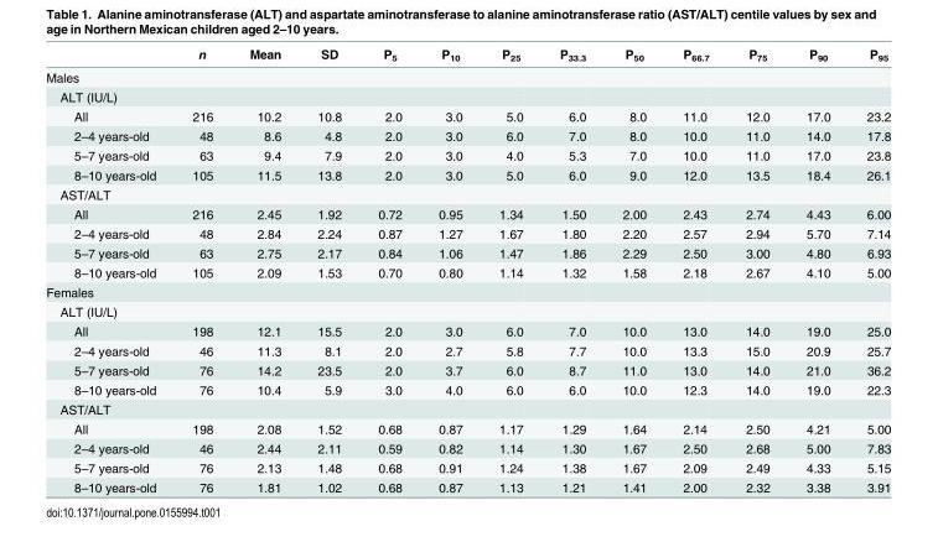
<table><thead><tr><td></td><td>n</td><td>Mean</td><td>SD</td><td>P<sub>5</sub></td><td>P<sub>10</sub></td><td>P<sub>25</sub></td><td>P<sub>33.3</sub></td><td>P<sub>50</sub></td><td>P<sub>66.7</sub></td><td>P<sub>75</sub></td><td>P<sub>90</sub></td><td>P<sub>95</sub></td></tr></thead><tbody><tr><td colspan="13">Males</td></tr><tr><td colspan="13">ALT (IU/L)</td></tr><tr><td>All</td><td>216</td><td>10.2</td><td>10.8</td><td>2.0</td><td>3.0</td><td>5.0</td><td>6.0</td><td>8.0</td><td>11.0</td><td>12.0</td><td>17.0</td><td>23.2</td></tr><tr><td>2–4 years-old</td><td>48</td><td>8.6</td><td>4.8</td><td>2.0</td><td>3.0</td><td>6.0</td><td>7.0</td><td>8.0</td><td>10.0</td><td>11.0</td><td>14.0</td><td>17.8</td></tr><tr><td>5–7 years-old</td><td>63</td><td>9.4</td><td>7.9</td><td>2.0</td><td>3.0</td><td>4.0</td><td>5.3</td><td>7.0</td><td>10.0</td><td>11.0</td><td>17.0</td><td>23.8</td></tr><tr><td>8–10 years-old</td><td>105</td><td>11.5</td><td>13.8</td><td>2.0</td><td>3.0</td><td>5.0</td><td>6.0</td><td>9.0</td><td>12.0</td><td>13.5</td><td>18.4</td><td>26.1</td></tr><tr><td colspan="13">AST/ALT</td></tr><tr><td>All</td><td>216</td><td>2.45</td><td>1.92</td><td>0.72</td><td>0.95</td><td>1.34</td><td>1.50</td><td>2.00</td><td>2.43</td><td>2.74</td><td>4.43</td><td>6.00</td></tr><tr><td>2–4 years-old</td><td>48</td><td>2.84</td><td>2.24</td><td>0.87</td><td>1.27</td><td>1.67</td><td>1.80</td><td>2.20</td><td>2.57</td><td>2.94</td><td>5.70</td><td>7.14</td></tr><tr><td>5–7 years-old</td><td>63</td><td>2.75</td><td>2.17</td><td>0.84</td><td>1.06</td><td>1.47</td><td>1.86</td><td>2.29</td><td>2.50</td><td>3.00</td><td>4.80</td><td>6.93</td></tr><tr><td>8–10 years-old</td><td>105</td><td>2.09</td><td>1.53</td><td>0.70</td><td>0.80</td><td>1.14</td><td>1.32</td><td>1.58</td><td>2.18</td><td>2.67</td><td>4.10</td><td>5.00</td></tr><tr><td colspan="13">Females</td></tr><tr><td colspan="13">ALT (IU/L)</td></tr><tr><td>All</td><td>198</td><td>12.1</td><td>15.5</td><td>2.0</td><td>3.0</td><td>6.0</td><td>7.0</td><td>10.0</td><td>13.0</td><td>14.0</td><td>19.0</td><td>25.0</td></tr><tr><td>2–4 years-old</td><td>46</td><td>11.3</td><td>8.1</td><td>2.0</td><td>2.7</td><td>5.8</td><td>7.7</td><td>10.0</td><td>13.3</td><td>15.0</td><td>20.9</td><td>25.7</td></tr><tr><td>5–7 years-old</td><td>76</td><td>14.2</td><td>23.5</td><td>2.0</td><td>3.7</td><td>6.0</td><td>8.7</td><td>11.0</td><td>13.0</td><td>14.0</td><td>21.0</td><td>36.2</td></tr><tr><td>8–10 years-old</td><td>76</td><td>10.4</td><td>5.9</td><td>3.0</td><td>4.0</td><td>6.0</td><td>6.0</td><td>10.0</td><td>12.3</td><td>14.0</td><td>19.0</td><td>22.3</td></tr><tr><td colspan="13">AST/ALT</td></tr><tr><td>All</td><td>198</td><td>2.08</td><td>1.52</td><td>0.68</td><td>0.87</td><td>1.17</td><td>1.29</td><td>1.64</td><td>2.14</td><td>2.50</td><td>4.21</td><td>5.00</td></tr><tr><td>2–4 years-old</td><td>46</td><td>2.44</td><td>2.11</td><td>0.59</td><td>0.82</td><td>1.14</td><td>1.30</td><td>1.67</td><td>2.50</td><td>2.68</td><td>5.00</td><td>7.83</td></tr><tr><td>5–7 years-old</td><td>76</td><td>2.13</td><td>1.48</td><td>0.68</td><td>0.91</td><td>1.24</td><td>1.38</td><td>1.67</td><td>2.09</td><td>2.49</td><td>4.33</td><td>5.15</td></tr><tr><td>8–10 years-old</td><td>76</td><td>1.81</td><td>1.02</td><td>0.68</td><td>0.87</td><td>1.13</td><td>1.21</td><td>1.41</td><td>2.00</td><td>2.32</td><td>3.38</td><td>3.91</td></tr></tbody></table>